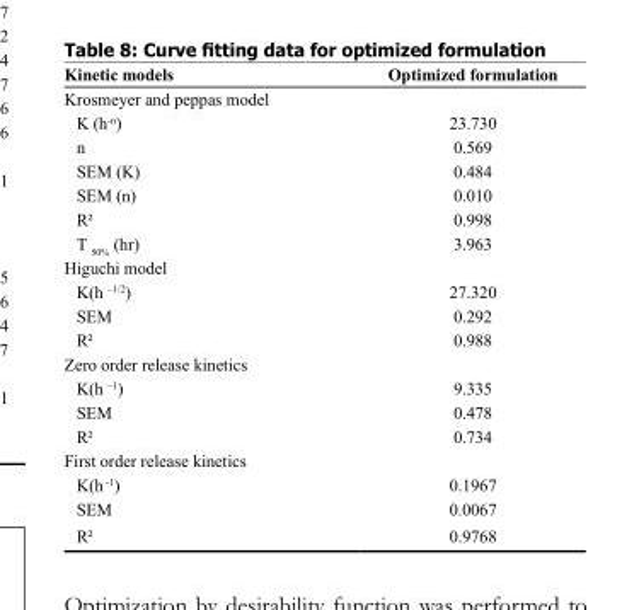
<table><thead><tr><td>Kinetic models</td><td>Optimized formulation</td></tr></thead><tbody><tr><td colspan="2">Krosmeyer and peppas model</td></tr><tr><td>K (h<sup>-n</sup>)</td><td>23.730</td></tr><tr><td>n</td><td>0.569</td></tr><tr><td>SEM (K)</td><td>0.484</td></tr><tr><td>SEM (n)</td><td>0.010</td></tr><tr><td>R²</td><td>0.998</td></tr><tr><td>T <sub>50%</sub> (hr)</td><td>3.963</td></tr><tr><td colspan="2">Higuchi model</td></tr><tr><td>K(h <sup>–1/2</sup>)</td><td>27.320</td></tr><tr><td>SEM</td><td>0.292</td></tr><tr><td>R²</td><td>0.988</td></tr><tr><td colspan="2">Zero order release kinetics</td></tr><tr><td>K(h <sup>–1</sup>)</td><td>9.335</td></tr><tr><td>SEM</td><td>0.478</td></tr><tr><td>R²</td><td>0.734</td></tr><tr><td colspan="2">First order release kinetics</td></tr><tr><td>K(h <sup>-1</sup>)</td><td>0.1967</td></tr><tr><td>SEM</td><td>0.0067</td></tr><tr><td>R²</td><td>0.9768</td></tr></tbody></table>